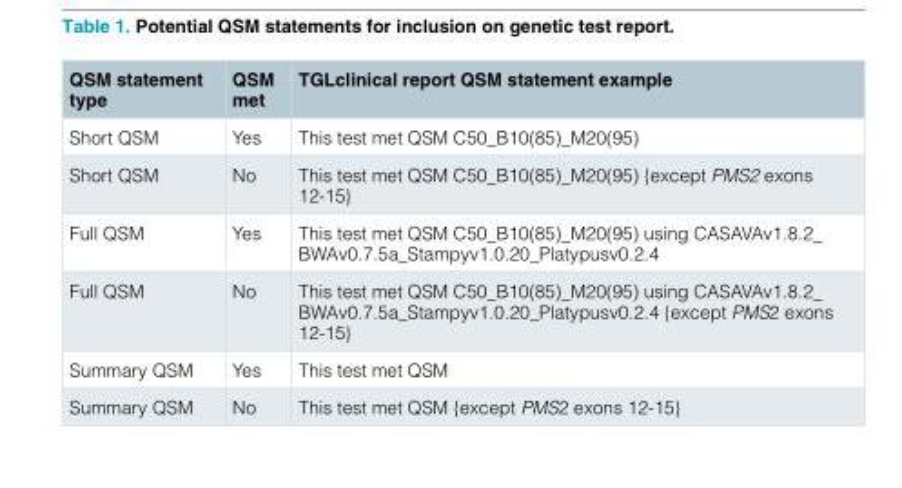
<table><thead><tr><td>QSM statement type</td><td>QSM met</td><td>TGLclinical report QSM statement example</td></tr></thead><tbody><tr><td>Short QSM</td><td>Yes</td><td>This test met QSM C50_B10(85)_M20(95)</td></tr><tr><td>Short QSM</td><td>No</td><td>This test met QSM C50_B10(85)_M20(95) {except PMS2 exons 12-15}</td></tr><tr><td>Full QSM</td><td>Yes</td><td>This test met QSM C50_B10(85)_M20(95) using CASAVAv1.8.2_ BWAv0.7.5a_Stampyv1.0.20_Platypusv0.2.4</td></tr><tr><td>Full QSM</td><td>No</td><td>This test met QSM C50_B10(85)_M20(95) using CASAVAv1.8.2_ BWAv0.7.5a_Stampyv1.0.20_Platypusv0.2.4 {except PMS2 exons 12-15}</td></tr><tr><td>Summary QSM</td><td>Yes</td><td>This test met QSM</td></tr><tr><td>Summary QSM</td><td>No</td><td>This test met QSM {except PMS2 exons 12-15}</td></tr></tbody></table>